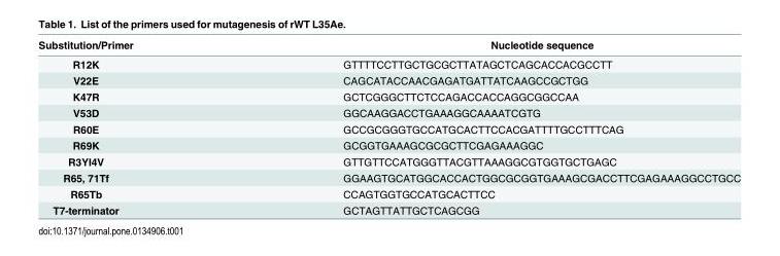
<table><thead><tr><td>Substitution/Primer</td><td>Nucleotide sequence</td></tr></thead><tbody><tr><td>R12K</td><td>GTTTTCCTTGCTGCGCTTATAGCTCAGCACCACGCCTT</td></tr><tr><td>V22E</td><td>CAGCATACCAACGAGATGATTATCAAGCCGCTGG</td></tr><tr><td>K47R</td><td>GCTCGGGCTTCTCCAGACCACCAGGCGGCCAA</td></tr><tr><td>V53D</td><td>GGCAAGGACCTGAAAGGCAAAATCGTG</td></tr><tr><td>R60E</td><td>GCCGCGGGTGCCATGCACTTCCACGATTTTGCCTTTCAG</td></tr><tr><td>R69K</td><td>GCGGTGAAAGCGCGCTTCGAGAAAGGC</td></tr><tr><td>R3YI4V</td><td>GTTGTTCCATGGGTTACGTTAAAGGCGTGGTGCTGAGC</td></tr><tr><td>R65, 71Tf</td><td>GGAAGTGCATGGCACCACTGGCGCGGTGAAAGCGACCTTCGAGAAAGGCCTGCC</td></tr><tr><td>R65Tb</td><td>CCAGTGGTGCCATGCACTTCC</td></tr><tr><td>T7-terminator</td><td>GCTAGTTATTGCTCAGCGG</td></tr></tbody></table>